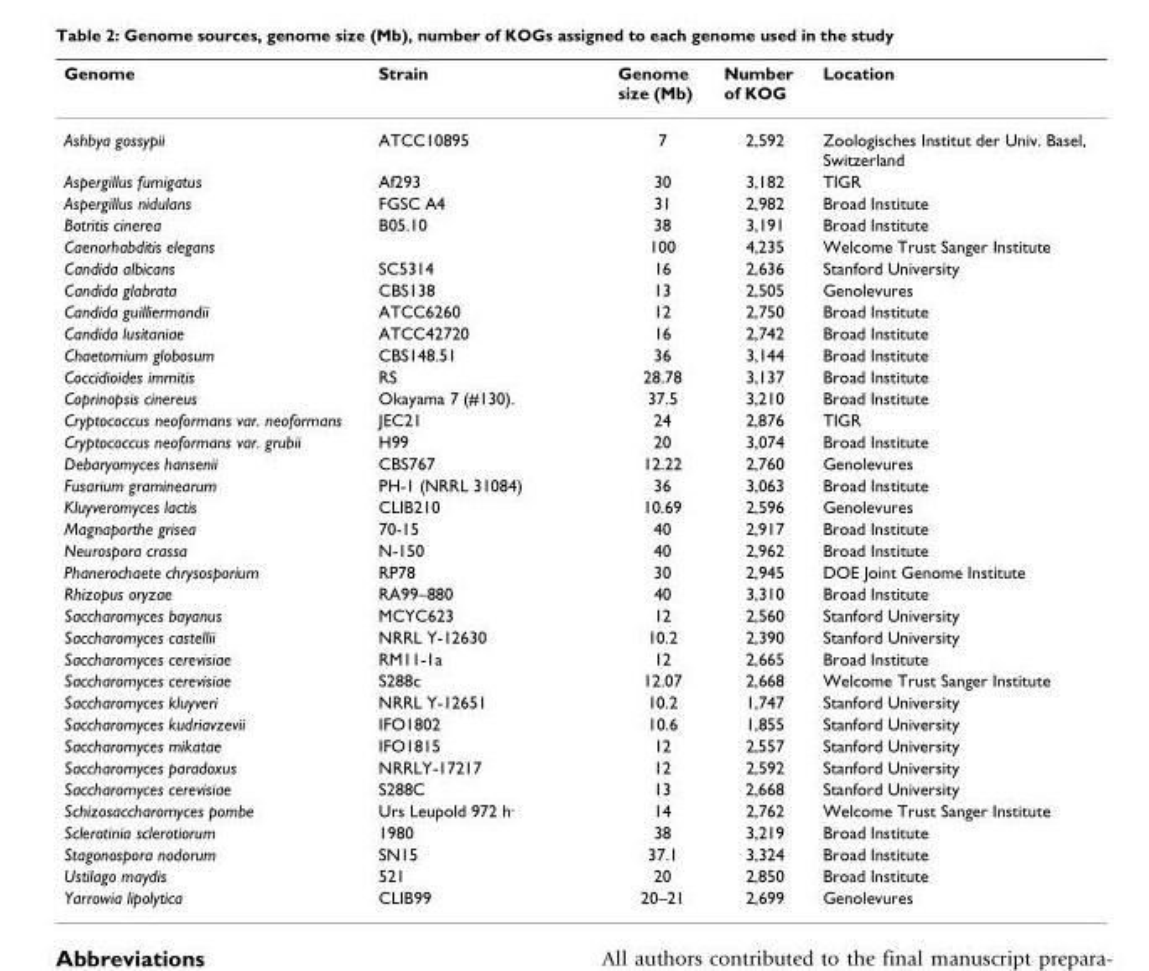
<table><thead><tr><td>Genome</td><td>Strain</td><td>Genome size (Mb)</td><td>Number of KOG</td><td>Location</td></tr></thead><tbody><tr><td>Ashbya gossypii</td><td>ATCC10895</td><td>7</td><td>2,592</td><td>Zoologisches Institut der Univ. Basel, Switzerland</td></tr><tr><td>Aspergillus fumigatus</td><td>Af293</td><td>30</td><td>3,182</td><td>TIGR</td></tr><tr><td>Aspergillus nidulans</td><td>FGSC A4</td><td>31</td><td>2,982</td><td>Broad Institute</td></tr><tr><td>Botritis cinerea</td><td>B05.10</td><td>38</td><td>3,191</td><td>Broad Institute</td></tr><tr><td>Caenorhabditis elegans</td><td></td><td>100</td><td>4,235</td><td>Welcome Trust Sanger Institute</td></tr><tr><td>Candida albicans</td><td>SC5314</td><td>16</td><td>2,636</td><td>Stanford University</td></tr><tr><td>Candida glabrata</td><td>CBS138</td><td>13</td><td>2,505</td><td>Genolevures</td></tr><tr><td>Candida guilliermondii</td><td>ATCC6260</td><td>12</td><td>2,750</td><td>Broad Institute</td></tr><tr><td>Candida lusitaniae</td><td>ATCC42720</td><td>16</td><td>2,742</td><td>Broad Institute</td></tr><tr><td>Chaetomium globosum</td><td>CBS148.51</td><td>36</td><td>3,144</td><td>Broad Institute</td></tr><tr><td>Coccidioides immitis</td><td>RS</td><td>28.78</td><td>3,137</td><td>Broad Institute</td></tr><tr><td>Coprinopsis cinereus</td><td>Okayama 7 (#130).</td><td>37.5</td><td>3,210</td><td>Broad Institute</td></tr><tr><td>Cryptococcus neoformans var. neoformans</td><td>JEC21</td><td>24</td><td>2,876</td><td>TIGR</td></tr><tr><td>Cryptococcus neoformans var. grubii</td><td>H99</td><td>20</td><td>3,074</td><td>Broad Institute</td></tr><tr><td>Debaryomyces hansenii</td><td>CBS767</td><td>12.22</td><td>2,760</td><td>Genolevures</td></tr><tr><td>Fusarium graminearum</td><td>PH-1 (NRRL 31084)</td><td>36</td><td>3,063</td><td>Broad Institute</td></tr><tr><td>Kluyveromyces lactis</td><td>CLIB210</td><td>10.69</td><td>2,596</td><td>Genolevures</td></tr><tr><td>Magnaporthe grisea</td><td>70-15</td><td>40</td><td>2,917</td><td>Broad Institute</td></tr><tr><td>Neurospora crassa</td><td>N-150</td><td>40</td><td>2,962</td><td>Broad Institute</td></tr><tr><td>Phanerochaete chrysosporium</td><td>RP78</td><td>30</td><td>2,945</td><td>DOE Joint Genome Institute</td></tr><tr><td>Rhizopus oryzae</td><td>RA99–880</td><td>40</td><td>3,310</td><td>Broad Institute</td></tr><tr><td>Saccharomyces bayanus</td><td>MCYC623</td><td>12</td><td>2,560</td><td>Stanford University</td></tr><tr><td>Saccharomyces castellii</td><td>NRRL Y-12630</td><td>10.2</td><td>2,390</td><td>Stanford University</td></tr><tr><td>Saccharomyces cerevisiae</td><td>RM11-1a</td><td>12</td><td>2,665</td><td>Broad Institute</td></tr><tr><td>Saccharomyces cerevisiae</td><td>S288c</td><td>12.07</td><td>2,668</td><td>Welcome Trust Sanger Institute</td></tr><tr><td>Saccharomyces kluyveri</td><td>NRRL Y-12651</td><td>10.2</td><td>1,747</td><td>Stanford University</td></tr><tr><td>Saccharomyces kudriavzevii</td><td>IFO1802</td><td>10.6</td><td>1,855</td><td>Stanford University</td></tr><tr><td>Saccharomyces mikatae</td><td>IFO1815</td><td>12</td><td>2,557</td><td>Stanford University</td></tr><tr><td>Saccharomyces paradoxus</td><td>NRRLY-17217</td><td>12</td><td>2,592</td><td>Stanford University</td></tr><tr><td>Saccharomyces cerevisiae</td><td>S288C</td><td>13</td><td>2,668</td><td>Stanford University</td></tr><tr><td>Schizosaccharomyces pombe</td><td>Urs Leupold 972 h<sup>-</sup></td><td>14</td><td>2,762</td><td>Welcome Trust Sanger Institute</td></tr><tr><td>Sclerotinia sclerotiorum</td><td>1980</td><td>38</td><td>3,219</td><td>Broad Institute</td></tr><tr><td>Stagonospora nodorum</td><td>SN15</td><td>37.1</td><td>3,324</td><td>Broad Institute</td></tr><tr><td>Ustilago maydis</td><td>521</td><td>20</td><td>2,850</td><td>Broad Institute</td></tr><tr><td>Yarrowia lipolytica</td><td>CLIB99</td><td>20–21</td><td>2,699</td><td>Genolevures</td></tr></tbody></table>